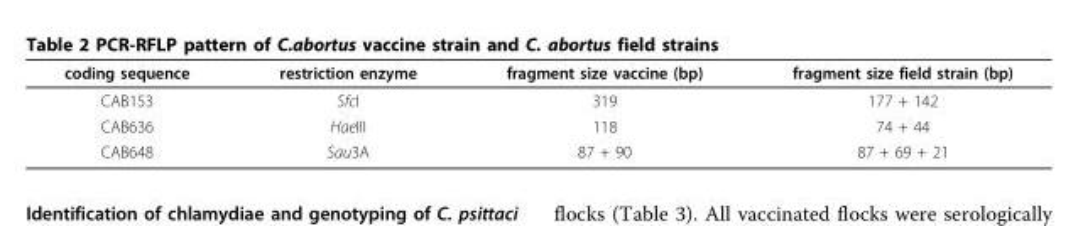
<table><thead><tr><td>coding sequence</td><td>restriction enzyme</td><td>fragment size vaccine (bp)</td><td>fragment size field strain (bp)</td></tr></thead><tbody><tr><td>CAB153</td><td>SfcI</td><td>319</td><td>177 + 142</td></tr><tr><td>CAB636</td><td>HaeIII</td><td>118</td><td>74 + 44</td></tr><tr><td>CAB648</td><td>Sau3A</td><td>87 + 90</td><td>87 + 69 + 21</td></tr></tbody></table>